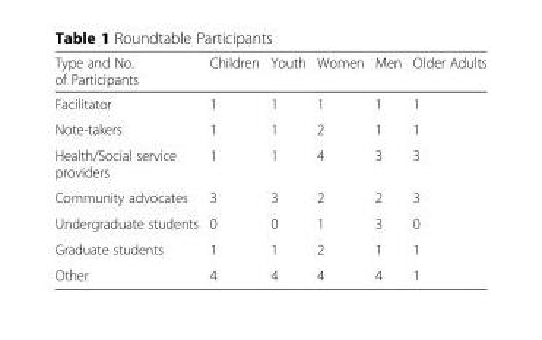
<table><thead><tr><td>Type and No. of Participants</td><td>Children</td><td>Youth</td><td>Women</td><td>Men</td><td>Older Adults</td></tr></thead><tbody><tr><td>Facilitator</td><td>1</td><td>1</td><td>1</td><td>1</td><td>1</td></tr><tr><td>Note-takers</td><td>1</td><td>1</td><td>2</td><td>1</td><td>1</td></tr><tr><td>Health/Social service providers</td><td>1</td><td>1</td><td>4</td><td>3</td><td>3</td></tr><tr><td>Community advocates</td><td>3</td><td>3</td><td>2</td><td>2</td><td>3</td></tr><tr><td>Undergraduate students</td><td>0</td><td>0</td><td>1</td><td>3</td><td>0</td></tr><tr><td>Graduate students</td><td>1</td><td>1</td><td>2</td><td>1</td><td>1</td></tr><tr><td>Other</td><td>4</td><td>4</td><td>4</td><td>4</td><td>1</td></tr></tbody></table>